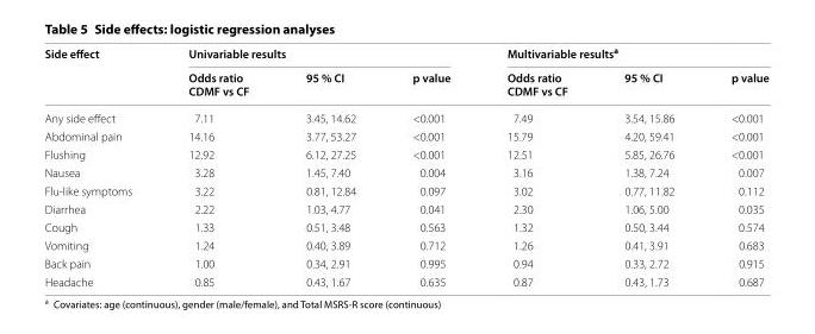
<table><thead><tr><td rowspan="2">Side effect</td><td colspan="3">Univariable results</td><td colspan="3">Multivariable results<sup>a</sup></td></tr><tr><td>Odds ratio CDMF vs CF</td><td>95 % CI</td><td>p value</td><td>Odds ratio CDMF vs CF</td><td>95 % CI</td><td>p value</td></tr></thead><tbody><tr><td>Any side effect</td><td>7.11</td><td>3.45, 14.62</td><td>&lt;0.001</td><td>7.49</td><td>3.54, 15.86</td><td>&lt;0.001</td></tr><tr><td>Abdominal pain</td><td>14.16</td><td>3.77, 53.27</td><td>&lt;0.001</td><td>15.79</td><td>4.20, 59.41</td><td>&lt;0.001</td></tr><tr><td>Flushing</td><td>12.92</td><td>6.12, 27.25</td><td>&lt;0.001</td><td>12.51</td><td>5.85, 26.76</td><td>&lt;0.001</td></tr><tr><td>Nausea</td><td>3.28</td><td>1.45, 7.40</td><td>0.004</td><td>3.16</td><td>1.38, 7.24</td><td>0.007</td></tr><tr><td>Flu-like symptoms</td><td>3.22</td><td>0.81, 12.84</td><td>0.097</td><td>3.02</td><td>0.77, 11.82</td><td>0.112</td></tr><tr><td>Diarrhea</td><td>2.22</td><td>1.03, 4.77</td><td>0.041</td><td>2.30</td><td>1.06, 5.00</td><td>0.035</td></tr><tr><td>Cough</td><td>1.33</td><td>0.51, 3.48</td><td>0.563</td><td>1.32</td><td>0.50, 3.44</td><td>0.574</td></tr><tr><td>Vomiting</td><td>1.24</td><td>0.40, 3.89</td><td>0.712</td><td>1.26</td><td>0.41, 3.91</td><td>0.683</td></tr><tr><td>Back pain</td><td>1.00</td><td>0.34, 2.91</td><td>0.995</td><td>0.94</td><td>0.33, 2.72</td><td>0.915</td></tr><tr><td>Headache</td><td>0.85</td><td>0.43, 1.67</td><td>0.635</td><td>0.87</td><td>0.43, 1.73</td><td>0.687</td></tr></tbody></table>